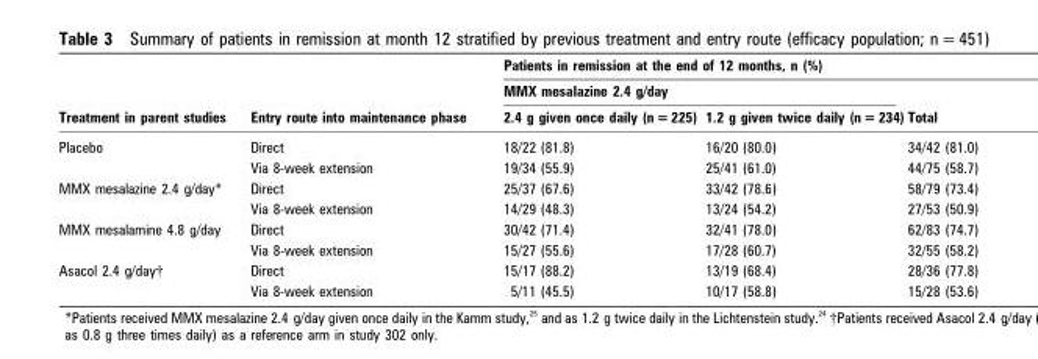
<table><thead><tr><td rowspan="3">Treatment in parent studies</td><td rowspan="3">Entry route into maintenance phase</td><td colspan="3">Patients in remission at the end of 12 months, n (%)</td></tr><tr><td colspan="2">MMX mesalazine 2.4 g/day</td><td rowspan="2">Total</td></tr><tr><td>2.4 g given once daily (n = 225)</td><td>1.2 g given twice daily (n = 234)</td></tr></thead><tbody><tr><td rowspan="2">Placebo</td><td>Direct</td><td>18/22 (81.8)</td><td>16/20 (80.0)</td><td>34/42 (81.0)</td></tr><tr><td>Via 8-week extension</td><td>19/34 (55.9)</td><td>25/41 (61.0)</td><td>44/75 (58.7)</td></tr><tr><td rowspan="2">MMX mesalazine 2.4 g/day*</td><td>Direct</td><td>25/37 (67.6)</td><td>33/42 (78.6)</td><td>58/79 (73.4)</td></tr><tr><td>Via 8-week extension</td><td>14/29 (48.3)</td><td>13/24 (54.2)</td><td>27/53 (50.9)</td></tr><tr><td rowspan="2">MMX mesalamine 4.8 g/day</td><td>Direct</td><td>30/42 (71.4)</td><td>32/41 (78.0)</td><td>62/83 (74.7)</td></tr><tr><td>Via 8-week extension</td><td>15/27 (55.6)</td><td>17/28 (60.7)</td><td>32/55 (58.2)</td></tr><tr><td rowspan="2">Asacol 2.4 g/day†</td><td>Direct</td><td>15/17 (88.2)</td><td>13/19 (68.4)</td><td>28/36 (77.8)</td></tr><tr><td>Via 8-week extension</td><td>5/11 (45.5)</td><td>10/17 (58.8)</td><td>15/28 (53.6)</td></tr></tbody></table>